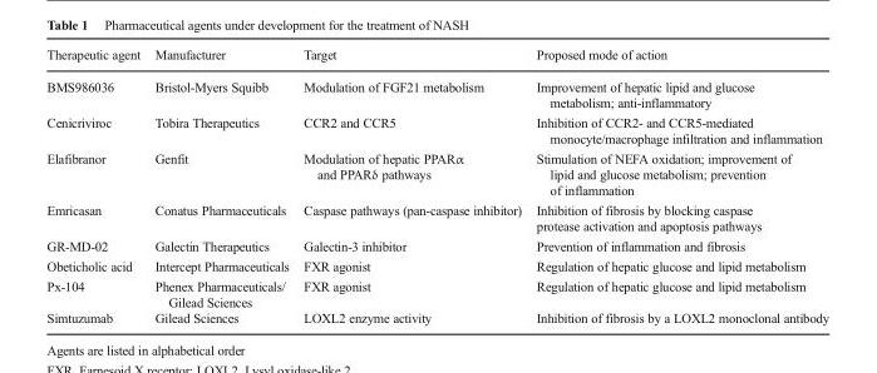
<table><thead><tr><td>Therapeutic agent</td><td>Manufacturer</td><td>Target</td><td>Proposed mode of action</td></tr></thead><tbody><tr><td>BMS986036</td><td>Bristol-Myers Squibb</td><td>Modulation of FGF21 metabolism</td><td>Improvement of hepatic lipid and glucose metabolism; anti-inflammatory</td></tr><tr><td>Cenicriviroc</td><td>Tobira Therapeutics</td><td>CCR2 and CCR5</td><td>Inhibition of CCR2- and CCR5-mediated monocyte/macrophage infiltration and inflammation</td></tr><tr><td>Elafibranor</td><td>Genfit</td><td>Modulation of hepatic PPARα and PPARδ pathways</td><td>Stimulation of NEFA oxidation; improvement of lipid and glucose metabolism; prevention of inflammation</td></tr><tr><td>Emricasan</td><td>Conatus Pharmaceuticals</td><td>Caspase pathways (pan-caspase inhibitor)</td><td>Inhibition of fibrosis by blocking caspase protease activation and apoptosis pathways</td></tr><tr><td>GR-MD-02</td><td>Galectin Therapeutics</td><td>Galectin-3 inhibitor</td><td>Prevention of inflammation and fibrosis</td></tr><tr><td>Obeticholic acid</td><td>Intercept Pharmaceuticals</td><td>FXR agonist</td><td>Regulation of hepatic glucose and lipid metabolism</td></tr><tr><td>Px-104</td><td>Phenex Pharmaceuticals/ Gilead Sciences</td><td>FXR agonist</td><td>Regulation of hepatic glucose and lipid metabolism</td></tr><tr><td>Simtuzumab</td><td>Gilead Sciences</td><td>LOXL2 enzyme activity</td><td>Inhibition of fibrosis by a LOXL2 monoclonal antibody</td></tr></tbody></table>